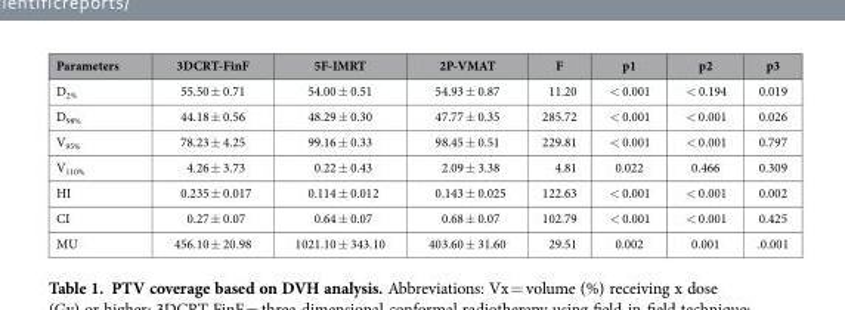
<table><thead><tr><td>Parameters</td><td>3DCRT-FinF</td><td>5F-IMRT</td><td>2P-VMAT</td><td>F</td><td>p1</td><td>p2</td><td>p3</td></tr></thead><tbody><tr><td>D<sub>2%</sub></td><td>55.50 ± 0.71</td><td>54.00 ± 0.51</td><td>54.93 ± 0.87</td><td>11.20</td><td>&lt; 0.001</td><td>&lt; 0.194</td><td>0.019</td></tr><tr><td>D<sub>98%</sub></td><td>44.18 ± 0.56</td><td>48.29 ± 0.30</td><td>47.77 ± 0.35</td><td>285.72</td><td>&lt; 0.001</td><td>&lt; 0.001</td><td>0.026</td></tr><tr><td>V<sub>95%</sub></td><td>78.23 ± 4.25</td><td>99.16 ± 0.33</td><td>98.45 ± 0.51</td><td>229.81</td><td>&lt; 0.001</td><td>&lt; 0.001</td><td>0.797</td></tr><tr><td>V<sub>110%</sub></td><td>4.26 ± 3.73</td><td>0.22 ± 0.43</td><td>2.09 ± 3.38</td><td>4.81</td><td>0.022</td><td>0.466</td><td>0.309</td></tr><tr><td>HI</td><td>0.235 ± 0.017</td><td>0.114 ± 0.012</td><td>0.143 ± 0.025</td><td>122.63</td><td>&lt; 0.001</td><td>&lt; 0.001</td><td>0.002</td></tr><tr><td>CI</td><td>0.27 ± 0.07</td><td>0.64 ± 0.07</td><td>0.68 ± 0.07</td><td>102.79</td><td>&lt; 0.001</td><td>&lt; 0.001</td><td>0.425</td></tr><tr><td>MU</td><td>456.10 ± 20.98</td><td>1021.10 ± 343.10</td><td>403.60 ± 31.60</td><td>29.51</td><td>0.002</td><td>0.001</td><td>.0.001</td></tr></tbody></table>